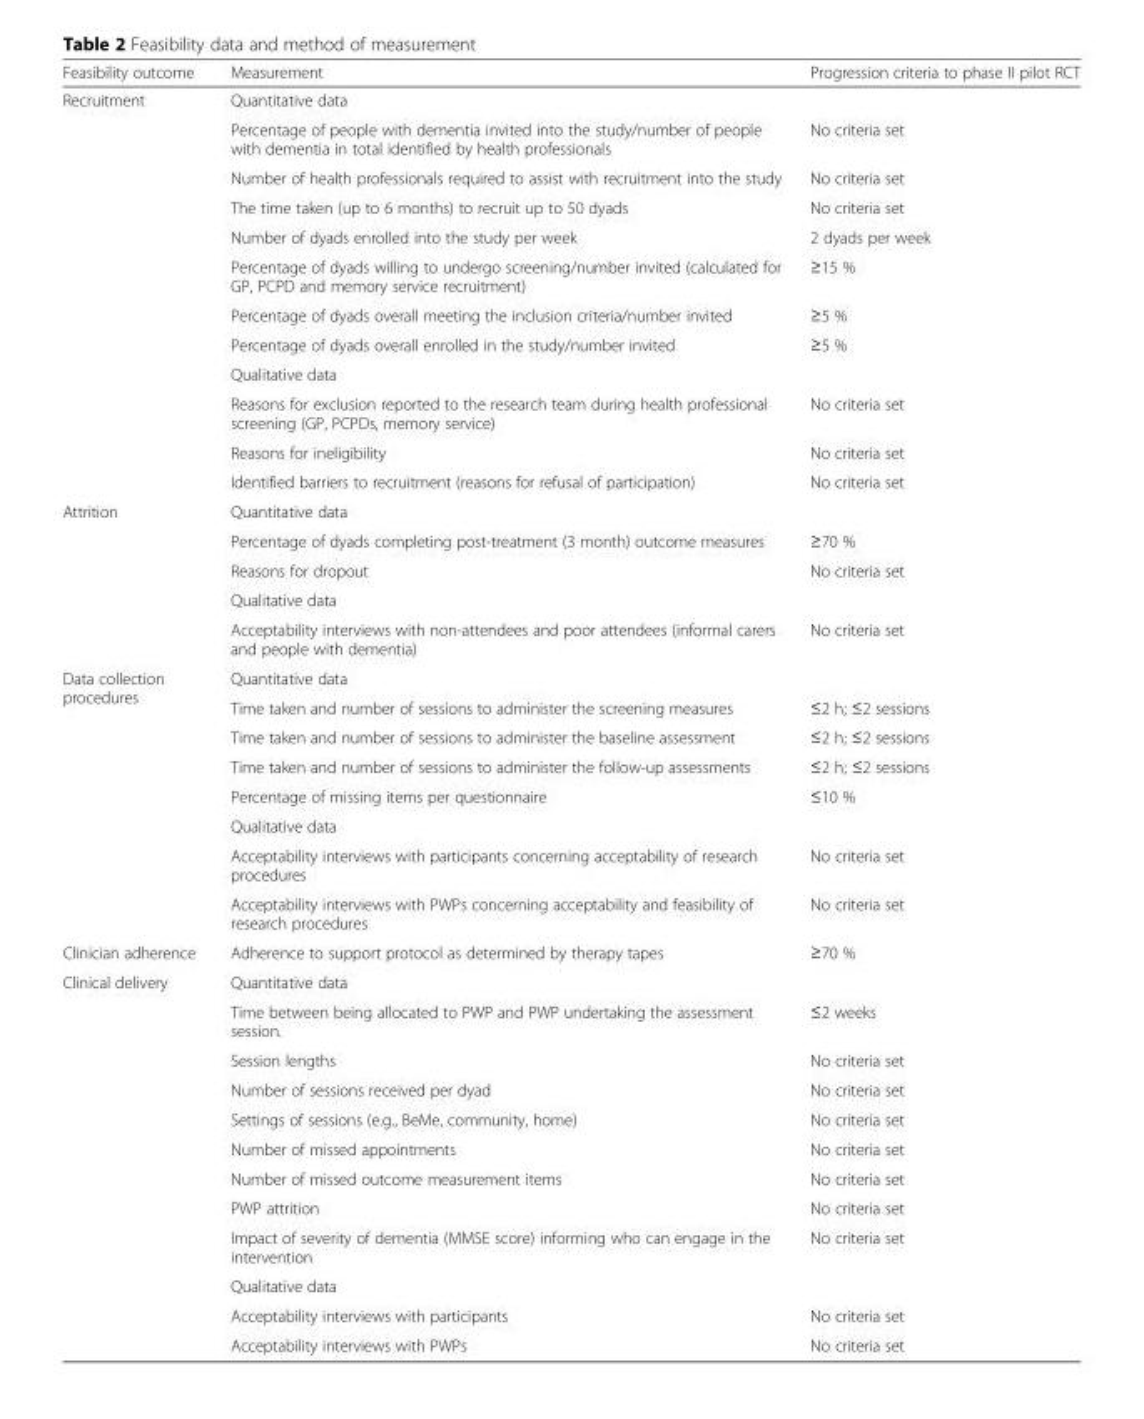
<table><thead><tr><td>Feasibility outcome</td><td>Measurement</td><td>Progression criteria to phase II pilot RCT</td></tr></thead><tbody><tr><td rowspan="12">Recruitment</td><td colspan="2">Quantitative data</td></tr><tr><td>Percentage of people with dementia invited into the study/number of people with dementia in total identified by health professionals</td><td>No criteria set</td></tr><tr><td>Number of health professionals required to assist with recruitment into the study</td><td>No criteria set</td></tr><tr><td>The time taken (up to 6 months) to recruit up to 50 dyads</td><td>No criteria set</td></tr><tr><td>Number of dyads enrolled into the study per week</td><td>2 dyads per week</td></tr><tr><td>Percentage of dyads willing to undergo screening/number invited (calculated for GP, PCPD and memory service recruitment)</td><td>≥15 %</td></tr><tr><td>Percentage of dyads overall meeting the inclusion criteria/number invited</td><td>≥5 %</td></tr><tr><td>Percentage of dyads overall enrolled in the study/number invited</td><td>≥5 %</td></tr><tr><td colspan="2">Qualitative data</td></tr><tr><td>Reasons for exclusion reported to the research team during health professional screening (GP, PCPDs, memory service)</td><td>No criteria set</td></tr><tr><td>Reasons for ineligibility</td><td>No criteria set</td></tr><tr><td>Identified barriers to recruitment (reasons for refusal of participation)</td><td>No criteria set</td></tr><tr><td rowspan="5">Attrition</td><td colspan="2">Quantitative data</td></tr><tr><td>Percentage of dyads completing post-treatment (3 month) outcome measures</td><td>≥70 %</td></tr><tr><td>Reasons for dropout</td><td>No criteria set</td></tr><tr><td colspan="2">Qualitative data</td></tr><tr><td>Acceptability interviews with non-attendees and poor attendees (informal carers and people with dementia)</td><td>No criteria set</td></tr><tr><td rowspan="8">Data collection procedures</td><td>Quantitative data</td><td></td></tr><tr><td>Time taken and number of sessions to administer the screening measures</td><td>≤2 h; ≤2 sessions</td></tr><tr><td>Time taken and number of sessions to administer the baseline assessment</td><td>≤2 h; ≤2 sessions</td></tr><tr><td>Time taken and number of sessions to administer the follow-up assessments</td><td>≤2 h; ≤2 sessions</td></tr><tr><td>Percentage of missing items per questionnaire</td><td>≤10 %</td></tr><tr><td colspan="2">Qualitative data</td></tr><tr><td>Acceptability interviews with participants concerning acceptability of research procedures</td><td>No criteria set</td></tr><tr><td>Acceptability interviews with PWPs concerning acceptability and feasibility of research procedures</td><td>No criteria set</td></tr><tr><td>Clinician adherence</td><td>Adherence to support protocol as determined by therapy tapes</td><td>≥70 %</td></tr><tr><td rowspan="12">Clinical delivery</td><td colspan="2">Quantitative data</td></tr><tr><td>Time between being allocated to PWP and PWP undertaking the assessment session.</td><td>≤2 weeks</td></tr><tr><td>Session lengths</td><td>No criteria set</td></tr><tr><td>Number of sessions received per dyad</td><td>No criteria set</td></tr><tr><td>Settings of sessions (e.g., BeMe, community, home)</td><td>No criteria set</td></tr><tr><td>Number of missed appointments</td><td>No criteria set</td></tr><tr><td>Number of missed outcome measurement items</td><td>No criteria set</td></tr><tr><td>PWP attrition</td><td>No criteria set</td></tr><tr><td>Impact of severity of dementia (MMSE score) informing who can engage in the intervention</td><td>No criteria set</td></tr><tr><td colspan="2">Qualitative data</td></tr><tr><td>Acceptability interviews with participants</td><td>No criteria set</td></tr><tr><td>Acceptability interviews with PWPs</td><td>No criteria set</td></tr></tbody></table>